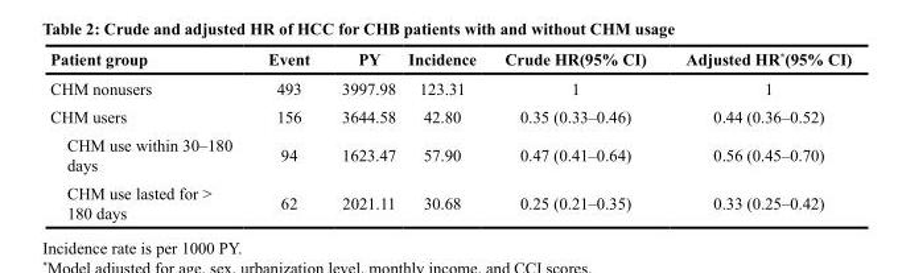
<table><thead><tr><td>Patient group</td><td>Event</td><td>PY</td><td>Incidence</td><td>Crude HR(95% CI)</td><td>Adjusted HR*(95% CI)</td></tr></thead><tbody><tr><td>CHM nonusers</td><td>493</td><td>3997.98</td><td>123.31</td><td>1</td><td>1</td></tr><tr><td>CHM users</td><td>156</td><td>3644.58</td><td>42.80</td><td>0.35 (0.33–0.46)</td><td>0.44 (0.36–0.52)</td></tr><tr><td>CHM use within 30–180 days</td><td>94</td><td>1623.47</td><td>57.90</td><td>0.47 (0.41–0.64)</td><td>0.56 (0.45–0.70)</td></tr><tr><td>CHM use lasted for &gt; 180 days</td><td>62</td><td>2021.11</td><td>30.68</td><td>0.25 (0.21–0.35)</td><td>0.33 (0.25–0.42)</td></tr></tbody></table>